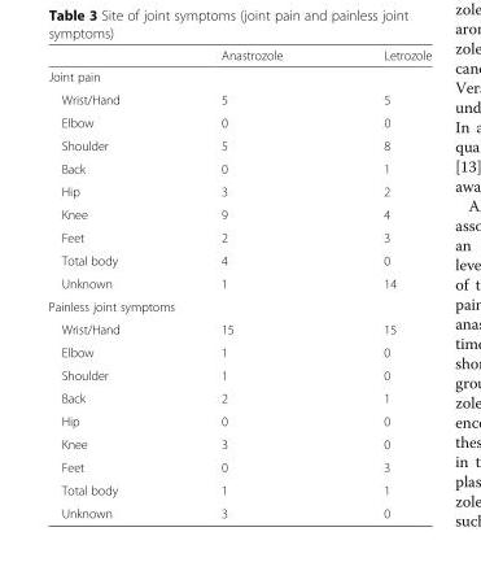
<table><thead><tr><td></td><td>Anastrozole</td><td>Letrozole</td></tr></thead><tbody><tr><td colspan="3">Joint pain</td></tr><tr><td>Wrist/Hand</td><td>5</td><td>5</td></tr><tr><td>Elbow</td><td>0</td><td>0</td></tr><tr><td>Shoulder</td><td>5</td><td>8</td></tr><tr><td>Back</td><td>0</td><td>1</td></tr><tr><td>Hip</td><td>3</td><td>2</td></tr><tr><td>Knee</td><td>9</td><td>4</td></tr><tr><td>Feet</td><td>2</td><td>3</td></tr><tr><td>Total body</td><td>4</td><td>0</td></tr><tr><td>Unknown</td><td>1</td><td>14</td></tr><tr><td colspan="3">Painless joint symptoms</td></tr><tr><td>Wrist/Hand</td><td>15</td><td>15</td></tr><tr><td>Elbow</td><td>1</td><td>0</td></tr><tr><td>Shoulder</td><td>1</td><td>0</td></tr><tr><td>Back</td><td>2</td><td>1</td></tr><tr><td>Hip</td><td>0</td><td>0</td></tr><tr><td>Knee</td><td>3</td><td>0</td></tr><tr><td>Feet</td><td>0</td><td>3</td></tr><tr><td>Total body</td><td>1</td><td>1</td></tr><tr><td>Unknown</td><td>3</td><td>0</td></tr></tbody></table>